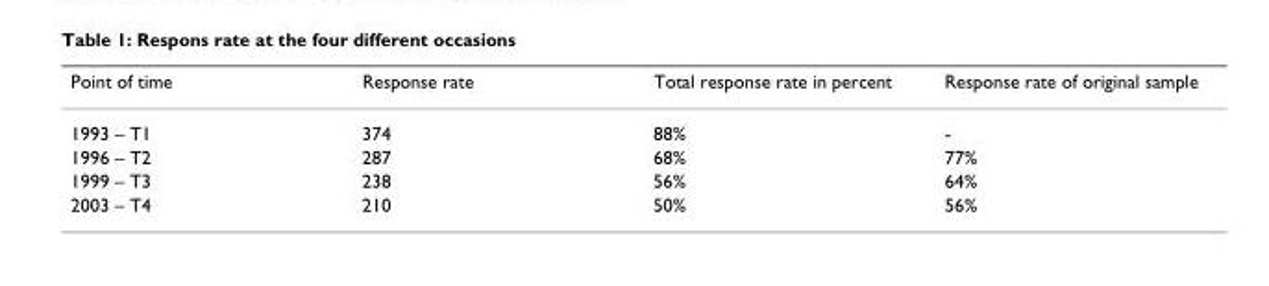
<table><thead><tr><td>Point of time</td><td>Response rate</td><td>Total response rate in percent</td><td>Response rate of original sample</td></tr></thead><tbody><tr><td>1993 – T1</td><td>374</td><td>88%</td><td>-</td></tr><tr><td>1996 – T2</td><td>287</td><td>68%</td><td>77%</td></tr><tr><td>1999 – T3</td><td>238</td><td>56%</td><td>64%</td></tr><tr><td>2003 – T4</td><td>210</td><td>50%</td><td>56%</td></tr></tbody></table>